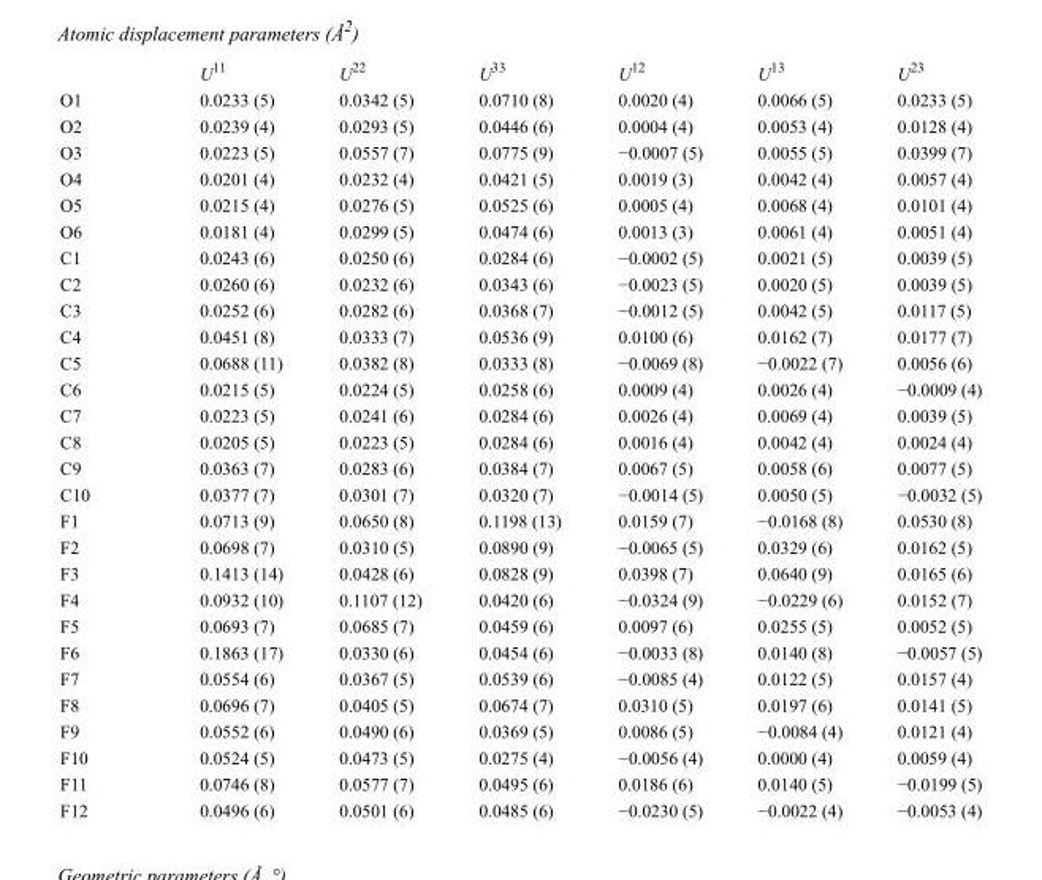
<table><thead><tr><td></td><td>U<sup>11</sup></td><td>U<sup>22</sup></td><td>U<sup>33</sup></td><td>U<sup>12</sup></td><td>U<sup>13</sup></td><td>U<sup>23</sup></td></tr></thead><tbody><tr><td>O1</td><td>0.0233 (5)</td><td>0.0342 (5)</td><td>0.0710 (8)</td><td>0.0020 (4)</td><td>0.0066 (5)</td><td>0.0233 (5)</td></tr><tr><td>O2</td><td>0.0239 (4)</td><td>0.0293 (5)</td><td>0.0446 (6)</td><td>0.0004 (4)</td><td>0.0053 (4)</td><td>0.0128 (4)</td></tr><tr><td>O3</td><td>0.0223 (5)</td><td>0.0557 (7)</td><td>0.0775 (9)</td><td>−0.0007 (5)</td><td>0.0055 (5)</td><td>0.0399 (7)</td></tr><tr><td>O4</td><td>0.0201 (4)</td><td>0.0232 (4)</td><td>0.0421 (5)</td><td>0.0019 (3)</td><td>0.0042 (4)</td><td>0.0057 (4)</td></tr><tr><td>O5</td><td>0.0215 (4)</td><td>0.0276 (5)</td><td>0.0525 (6)</td><td>0.0005 (4)</td><td>0.0068 (4)</td><td>0.0101 (4)</td></tr><tr><td>O6</td><td>0.0181 (4)</td><td>0.0299 (5)</td><td>0.0474 (6)</td><td>0.0013 (3)</td><td>0.0061 (4)</td><td>0.0051 (4)</td></tr><tr><td>C1</td><td>0.0243 (6)</td><td>0.0250 (6)</td><td>0.0284 (6)</td><td>−0.0002 (5)</td><td>0.0021 (5)</td><td>0.0039 (5)</td></tr><tr><td>C2</td><td>0.0260 (6)</td><td>0.0232 (6)</td><td>0.0343 (6)</td><td>−0.0023 (5)</td><td>0.0020 (5)</td><td>0.0039 (5)</td></tr><tr><td>C3</td><td>0.0252 (6)</td><td>0.0282 (6)</td><td>0.0368 (7)</td><td>−0.0012 (5)</td><td>0.0042 (5)</td><td>0.0117 (5)</td></tr><tr><td>C4</td><td>0.0451 (8)</td><td>0.0333 (7)</td><td>0.0536 (9)</td><td>0.0100 (6)</td><td>0.0162 (7)</td><td>0.0177 (7)</td></tr><tr><td>C5</td><td>0.0688 (11)</td><td>0.0382 (8)</td><td>0.0333 (8)</td><td>−0.0069 (8)</td><td>−0.0022 (7)</td><td>0.0056 (6)</td></tr><tr><td>C6</td><td>0.0215 (5)</td><td>0.0224 (5)</td><td>0.0258 (6)</td><td>0.0009 (4)</td><td>0.0026 (4)</td><td>−0.0009 (4)</td></tr><tr><td>C7</td><td>0.0223 (5)</td><td>0.0241 (6)</td><td>0.0284 (6)</td><td>0.0026 (4)</td><td>0.0069 (4)</td><td>0.0039 (5)</td></tr><tr><td>C8</td><td>0.0205 (5)</td><td>0.0223 (5)</td><td>0.0284 (6)</td><td>0.0016 (4)</td><td>0.0042 (4)</td><td>0.0024 (4)</td></tr><tr><td>C9</td><td>0.0363 (7)</td><td>0.0283 (6)</td><td>0.0384 (7)</td><td>0.0067 (5)</td><td>0.0058 (6)</td><td>0.0077 (5)</td></tr><tr><td>C10</td><td>0.0377 (7)</td><td>0.0301 (7)</td><td>0.0320 (7)</td><td>−0.0014 (5)</td><td>0.0050 (5)</td><td>−0.0032 (5)</td></tr><tr><td>F1</td><td>0.0713 (9)</td><td>0.0650 (8)</td><td>0.1198 (13)</td><td>0.0159 (7)</td><td>−0.0168 (8)</td><td>0.0530 (8)</td></tr><tr><td>F2</td><td>0.0698 (7)</td><td>0.0310 (5)</td><td>0.0890 (9)</td><td>−0.0065 (5)</td><td>0.0329 (6)</td><td>0.0162 (5)</td></tr><tr><td>F3</td><td>0.1413 (14)</td><td>0.0428 (6)</td><td>0.0828 (9)</td><td>0.0398 (7)</td><td>0.0640 (9)</td><td>0.0165 (6)</td></tr><tr><td>F4</td><td>0.0932 (10)</td><td>0.1107 (12)</td><td>0.0420 (6)</td><td>−0.0324 (9)</td><td>−0.0229 (6)</td><td>0.0152 (7)</td></tr><tr><td>F5</td><td>0.0693 (7)</td><td>0.0685 (7)</td><td>0.0459 (6)</td><td>0.0097 (6)</td><td>0.0255 (5)</td><td>0.0052 (5)</td></tr><tr><td>F6</td><td>0.1863 (17)</td><td>0.0330 (6)</td><td>0.0454 (6)</td><td>−0.0033 (8)</td><td>0.0140 (8)</td><td>−0.0057 (5)</td></tr><tr><td>F7</td><td>0.0554 (6)</td><td>0.0367 (5)</td><td>0.0539 (6)</td><td>−0.0085 (4)</td><td>0.0122 (5)</td><td>0.0157 (4)</td></tr><tr><td>F8</td><td>0.0696 (7)</td><td>0.0405 (5)</td><td>0.0674 (7)</td><td>0.0310 (5)</td><td>0.0197 (6)</td><td>0.0141 (5)</td></tr><tr><td>F9</td><td>0.0552 (6)</td><td>0.0490 (6)</td><td>0.0369 (5)</td><td>0.0086 (5)</td><td>−0.0084 (4)</td><td>0.0121 (4)</td></tr><tr><td>F10</td><td>0.0524 (5)</td><td>0.0473 (5)</td><td>0.0275 (4)</td><td>−0.0056 (4)</td><td>0.0000 (4)</td><td>0.0059 (4)</td></tr><tr><td>F11</td><td>0.0746 (8)</td><td>0.0577 (7)</td><td>0.0495 (6)</td><td>0.0186 (6)</td><td>0.0140 (5)</td><td>−0.0199 (5)</td></tr><tr><td>F12</td><td>0.0496 (6)</td><td>0.0501 (6)</td><td>0.0485 (6)</td><td>−0.0230 (5)</td><td>−0.0022 (4)</td><td>−0.0053 (4)</td></tr></tbody></table>